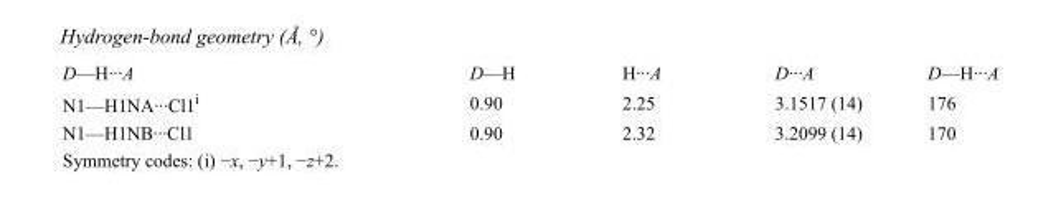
<table><tbody><tr><td>D—H···A</td><td>D—H</td><td>H···A</td><td>D···A</td><td>D—H···A</td></tr><tr><td>N1—H1NA···Cl1<sup>i</sup></td><td>0.90</td><td>2.25</td><td>3.1517 (14)</td><td>176</td></tr><tr><td>N1—H1NB···Cl1</td><td>0.90</td><td>2.32</td><td>3.2099 (14)</td><td>170</td></tr></tbody></table>